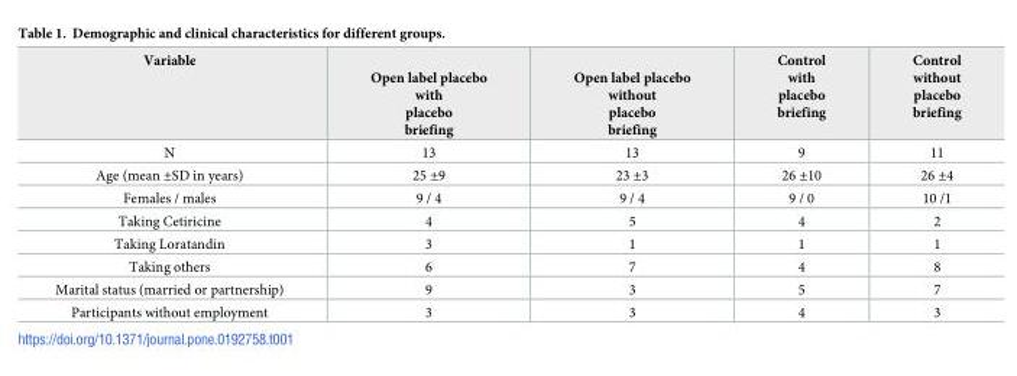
<table><thead><tr><td>Variable</td><td>Open label placebo with placebo briefing</td><td>Open label placebo without placebo briefing</td><td>Control with placebo briefing</td><td>Control without placebo briefing</td></tr></thead><tbody><tr><td>N</td><td>13</td><td>13</td><td>9</td><td>11</td></tr><tr><td>Age (mean ±SD in years)</td><td>25 ±9</td><td>23 ±3</td><td>26 ±10</td><td>26 ±4</td></tr><tr><td>Females / males</td><td>9 / 4</td><td>9 / 4</td><td>9 / 0</td><td>10 /1</td></tr><tr><td>Taking Cetiricine</td><td>4</td><td>5</td><td>4</td><td>2</td></tr><tr><td>Taking Loratandin</td><td>3</td><td>1</td><td>1</td><td>1</td></tr><tr><td>Taking others</td><td>6</td><td>7</td><td>4</td><td>8</td></tr><tr><td>Marital status (married or partnership)</td><td>9</td><td>3</td><td>5</td><td>7</td></tr><tr><td>Participants without employment</td><td>3</td><td>3</td><td>4</td><td>3</td></tr></tbody></table>